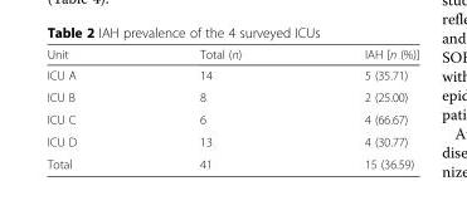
<table><thead><tr><td>Unit</td><td>Total (n)</td><td>IAH [n (%)]</td></tr></thead><tbody><tr><td>ICU A</td><td>14</td><td>5 (35.71)</td></tr><tr><td>ICU B</td><td>8</td><td>2 (25.00)</td></tr><tr><td>ICU C</td><td>6</td><td>4 (66.67)</td></tr><tr><td>ICU D</td><td>13</td><td>4 (30.77)</td></tr><tr><td>Total</td><td>41</td><td>15 (36.59)</td></tr></tbody></table>